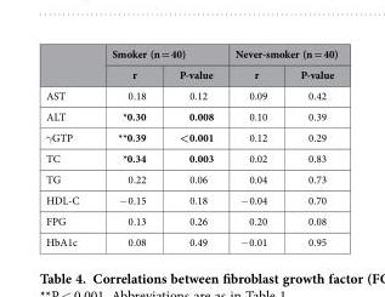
<table><thead><tr><td rowspan="2"></td><td colspan="2">Smoker (n = 40)</td><td colspan="2">Never-smoker (n = 40)</td></tr><tr><td>r</td><td>P-value</td><td>r</td><td>P-value</td></tr></thead><tbody><tr><td>AST</td><td>0.18</td><td>0.12</td><td>0.09</td><td>0.42</td></tr><tr><td>ALT</td><td>*0.30</td><td>0.008</td><td>0.10</td><td>0.39</td></tr><tr><td>γ GTP</td><td>**0.39</td><td>&lt;0.001</td><td>0.12</td><td>0.29</td></tr><tr><td>TC</td><td>*0.34</td><td>0.003</td><td>0.02</td><td>0.83</td></tr><tr><td>TG</td><td>0.22</td><td>0.06</td><td>0.04</td><td>0.73</td></tr><tr><td>HDL-C</td><td>− 0.15</td><td>0.18</td><td>− 0.04</td><td>0.70</td></tr><tr><td>FPG</td><td>0.13</td><td>0.26</td><td>0.20</td><td>0.08</td></tr><tr><td>HbA1c</td><td>0.08</td><td>0.49</td><td>− 0.01</td><td>0.95</td></tr></tbody></table>